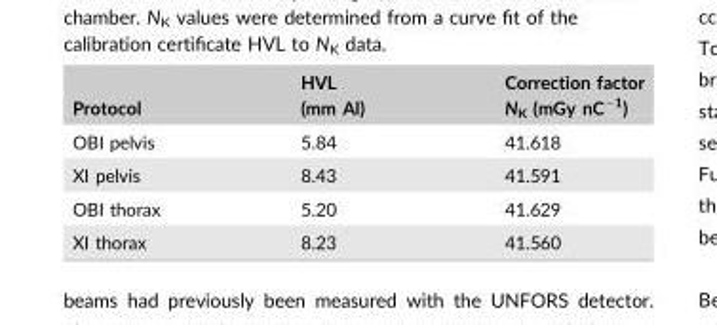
<table><thead><tr><td>Protocol</td><td>HVL (mm Al)</td><td>Correction factor N<sub>K</sub> (mGy nC<sup>−1</sup>)</td></tr></thead><tbody><tr><td>OBI pelvis</td><td>5.84</td><td>41.618</td></tr><tr><td>XI pelvis</td><td>8.43</td><td>41.591</td></tr><tr><td>OBI thorax</td><td>5.20</td><td>41.629</td></tr><tr><td>XI thorax</td><td>8.23</td><td>41.560</td></tr></tbody></table>